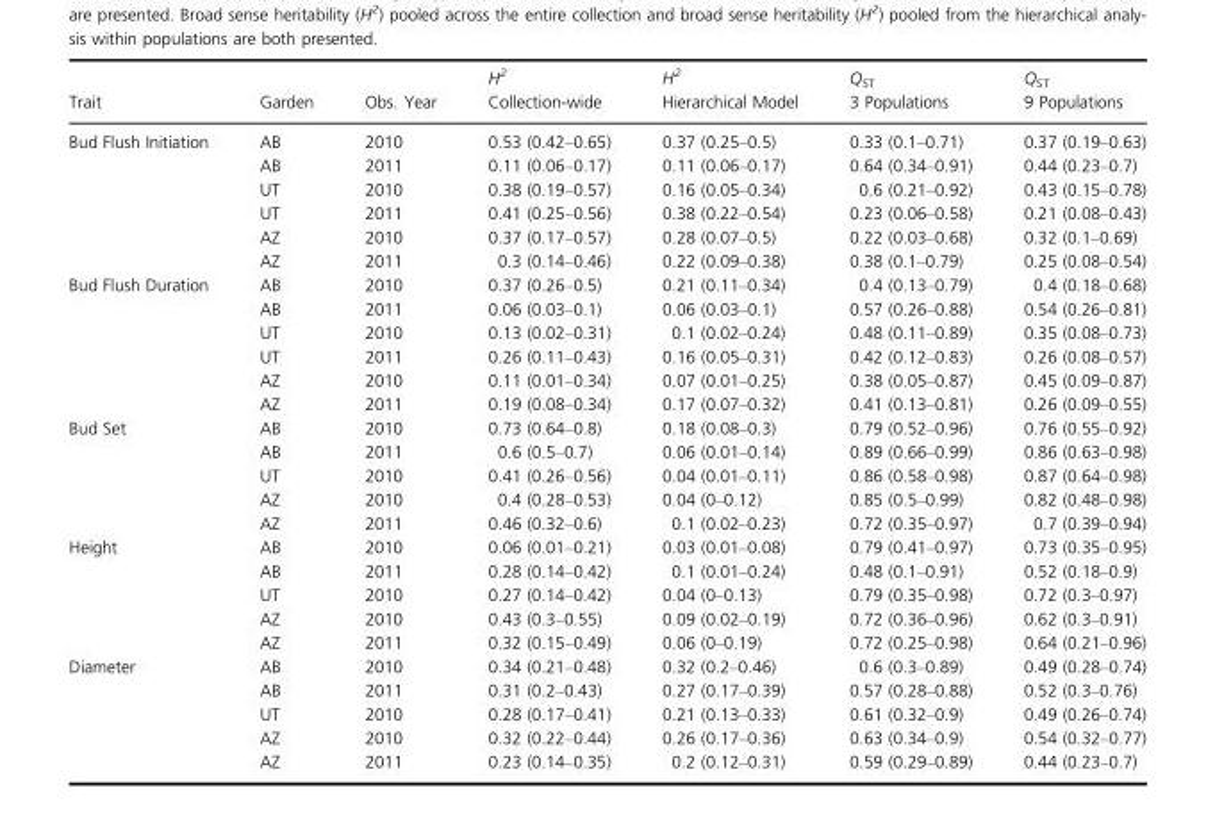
<table><thead><tr><td rowspan="2">Trait</td><td rowspan="2">Garden</td><td rowspan="2">Obs. Year</td><td rowspan="2">H<sup>2</sup> Collection-wide</td><td rowspan="2">H<sup>2</sup> Hierarchical Model</td><td rowspan="2">Q<sub>ST</sub> 3 Populations</td><td rowspan="2">Q<sub>ST</sub> 9 Populations</td></tr><tr></tr></thead><tbody><tr><td rowspan="6">Bud Flush Initiation</td><td>AB</td><td>2010</td><td>0.53 (0.42–0.65)</td><td>0.37 (0.25–0.5)</td><td>0.33 (0.1–0.71)</td><td>0.37 (0.19–0.63)</td></tr><tr><td>AB</td><td>2011</td><td>0.11 (0.06–0.17)</td><td>0.11 (0.06–0.17)</td><td>0.64 (0.34–0.91)</td><td>0.44 (0.23–0.7)</td></tr><tr><td>UT</td><td>2010</td><td>0.38 (0.19–0.57)</td><td>0.16 (0.05–0.34)</td><td>0.6 (0.21–0.92)</td><td>0.43 (0.15–0.78)</td></tr><tr><td>UT</td><td>2011</td><td>0.41 (0.25–0.56)</td><td>0.38 (0.22–0.54)</td><td>0.23 (0.06–0.58)</td><td>0.21 (0.08–0.43)</td></tr><tr><td>AZ</td><td>2010</td><td>0.37 (0.17–0.57)</td><td>0.28 (0.07–0.5)</td><td>0.22 (0.03–0.68)</td><td>0.32 (0.1–0.69)</td></tr><tr><td>AZ</td><td>2011</td><td>0.3 (0.14–0.46)</td><td>0.22 (0.09–0.38)</td><td>0.38 (0.1–0.79)</td><td>0.25 (0.08–0.54)</td></tr><tr><td rowspan="6">Bud Flush Duration</td><td>AB</td><td>2010</td><td>0.37 (0.26–0.5)</td><td>0.21 (0.11–0.34)</td><td>0.4 (0.13–0.79)</td><td>0.4 (0.18–0.68)</td></tr><tr><td>AB</td><td>2011</td><td>0.06 (0.03–0.1)</td><td>0.06 (0.03–0.1)</td><td>0.57 (0.26–0.88)</td><td>0.54 (0.26–0.81)</td></tr><tr><td>UT</td><td>2010</td><td>0.13 (0.02–0.31)</td><td>0.1 (0.02–0.24)</td><td>0.48 (0.11–0.89)</td><td>0.35 (0.08–0.73)</td></tr><tr><td>UT</td><td>2011</td><td>0.26 (0.11–0.43)</td><td>0.16 (0.05–0.31)</td><td>0.42 (0.12–0.83)</td><td>0.26 (0.08–0.57)</td></tr><tr><td>AZ</td><td>2010</td><td>0.11 (0.01–0.34)</td><td>0.07 (0.01–0.25)</td><td>0.38 (0.05–0.87)</td><td>0.45 (0.09–0.87)</td></tr><tr><td>AZ</td><td>2011</td><td>0.19 (0.08–0.34)</td><td>0.17 (0.07–0.32)</td><td>0.41 (0.13–0.81)</td><td>0.26 (0.09–0.55)</td></tr><tr><td rowspan="5">Bud Set</td><td>AB</td><td>2010</td><td>0.73 (0.64–0.8)</td><td>0.18 (0.08–0.3)</td><td>0.79 (0.52–0.96)</td><td>0.76 (0.55–0.92)</td></tr><tr><td>AB</td><td>2011</td><td>0.6 (0.5–0.7)</td><td>0.06 (0.01–0.14)</td><td>0.89 (0.66–0.99)</td><td>0.86 (0.63–0.98)</td></tr><tr><td>UT</td><td>2010</td><td>0.41 (0.26–0.56)</td><td>0.04 (0.01–0.11)</td><td>0.86 (0.58–0.98)</td><td>0.87 (0.64–0.98)</td></tr><tr><td>AZ</td><td>2010</td><td>0.4 (0.28–0.53)</td><td>0.04 (0–0.12)</td><td>0.85 (0.5–0.99)</td><td>0.82 (0.48–0.98)</td></tr><tr><td>AZ</td><td>2011</td><td>0.46 (0.32–0.6)</td><td>0.1 (0.02–0.23)</td><td>0.72 (0.35–0.97)</td><td>0.7 (0.39–0.94)</td></tr><tr><td rowspan="5">Height</td><td>AB</td><td>2010</td><td>0.06 (0.01–0.21)</td><td>0.03 (0.01–0.08)</td><td>0.79 (0.41–0.97)</td><td>0.73 (0.35–0.95)</td></tr><tr><td>AB</td><td>2011</td><td>0.28 (0.14–0.42)</td><td>0.1 (0.01–0.24)</td><td>0.48 (0.1–0.91)</td><td>0.52 (0.18–0.9)</td></tr><tr><td>UT</td><td>2010</td><td>0.27 (0.14–0.42)</td><td>0.04 (0–0.13)</td><td>0.79 (0.35–0.98)</td><td>0.72 (0.3–0.97)</td></tr><tr><td>AZ</td><td>2010</td><td>0.43 (0.3–0.55)</td><td>0.09 (0.02–0.19)</td><td>0.72 (0.36–0.96)</td><td>0.62 (0.3–0.91)</td></tr><tr><td>AZ</td><td>2011</td><td>0.32 (0.15–0.49)</td><td>0.06 (0–0.19)</td><td>0.72 (0.25–0.98)</td><td>0.64 (0.21–0.96)</td></tr><tr><td rowspan="5">Diameter</td><td>AB</td><td>2010</td><td>0.34 (0.21–0.48)</td><td>0.32 (0.2–0.46)</td><td>0.6 (0.3–0.89)</td><td>0.49 (0.28–0.74)</td></tr><tr><td>AB</td><td>2011</td><td>0.31 (0.2–0.43)</td><td>0.27 (0.17–0.39)</td><td>0.57 (0.28–0.88)</td><td>0.52 (0.3–0.76)</td></tr><tr><td>UT</td><td>2010</td><td>0.28 (0.17–0.41)</td><td>0.21 (0.13–0.33)</td><td>0.61 (0.32–0.9)</td><td>0.49 (0.26–0.74)</td></tr><tr><td>AZ</td><td>2010</td><td>0.32 (0.22–0.44)</td><td>0.26 (0.17–0.36)</td><td>0.63 (0.34–0.9)</td><td>0.54 (0.32–0.77)</td></tr><tr><td>AZ</td><td>2011</td><td>0.23 (0.14–0.35)</td><td>0.2 (0.12–0.31)</td><td>0.59 (0.29–0.89)</td><td>0.44 (0.23–0.7)</td></tr></tbody></table>